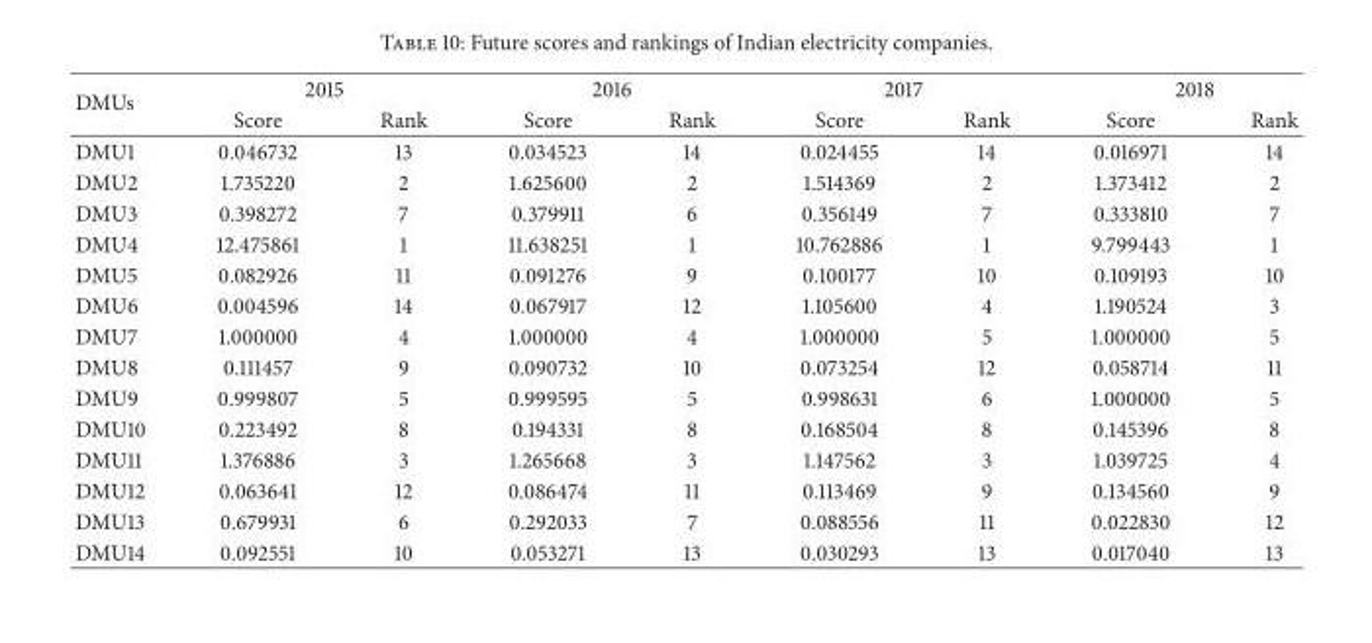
<table><thead><tr><td rowspan="2">DMUs</td><td colspan="2">2015</td><td colspan="2">2016</td><td colspan="2">2017</td><td colspan="2">2018</td></tr><tr><td>Score</td><td>Rank</td><td>Score</td><td>Rank</td><td>Score</td><td>Rank</td><td>Score</td><td>Rank</td></tr></thead><tbody><tr><td>DMU1</td><td>0.046732</td><td>13</td><td>0.034523</td><td>14</td><td>0.024455</td><td>14</td><td>0.016971</td><td>14</td></tr><tr><td>DMU2</td><td>1.735220</td><td>2</td><td>1.625600</td><td>2</td><td>1.514369</td><td>2</td><td>1.373412</td><td>2</td></tr><tr><td>DMU3</td><td>0.398272</td><td>7</td><td>0.379911</td><td>6</td><td>0.356149</td><td>7</td><td>0.333810</td><td>7</td></tr><tr><td>DMU4</td><td>12.475861</td><td>1</td><td>11.638251</td><td>1</td><td>10.762886</td><td>1</td><td>9.799443</td><td>1</td></tr><tr><td>DMU5</td><td>0.082926</td><td>11</td><td>0.091276</td><td>9</td><td>0.100177</td><td>10</td><td>0.109193</td><td>10</td></tr><tr><td>DMU6</td><td>0.004596</td><td>14</td><td>0.067917</td><td>12</td><td>1.105600</td><td>4</td><td>1.190524</td><td>3</td></tr><tr><td>DMU7</td><td>1.000000</td><td>4</td><td>1.000000</td><td>4</td><td>1.000000</td><td>5</td><td>1.000000</td><td>5</td></tr><tr><td>DMU8</td><td>0.111457</td><td>9</td><td>0.090732</td><td>10</td><td>0.073254</td><td>12</td><td>0.058714</td><td>11</td></tr><tr><td>DMU9</td><td>0.999807</td><td>5</td><td>0.999595</td><td>5</td><td>0.998631</td><td>6</td><td>1.000000</td><td>5</td></tr><tr><td>DMU10</td><td>0.223492</td><td>8</td><td>0.194331</td><td>8</td><td>0.168504</td><td>8</td><td>0.145396</td><td>8</td></tr><tr><td>DMU11</td><td>1.376886</td><td>3</td><td>1.265668</td><td>3</td><td>1.147562</td><td>3</td><td>1.039725</td><td>4</td></tr><tr><td>DMU12</td><td>0.063641</td><td>12</td><td>0.086474</td><td>11</td><td>0.113469</td><td>9</td><td>0.134560</td><td>9</td></tr><tr><td>DMU13</td><td>0.679931</td><td>6</td><td>0.292033</td><td>7</td><td>0.088556</td><td>11</td><td>0.022830</td><td>12</td></tr><tr><td>DMU14</td><td>0.092551</td><td>10</td><td>0.053271</td><td>13</td><td>0.030293</td><td>13</td><td>0.017040</td><td>13</td></tr></tbody></table>